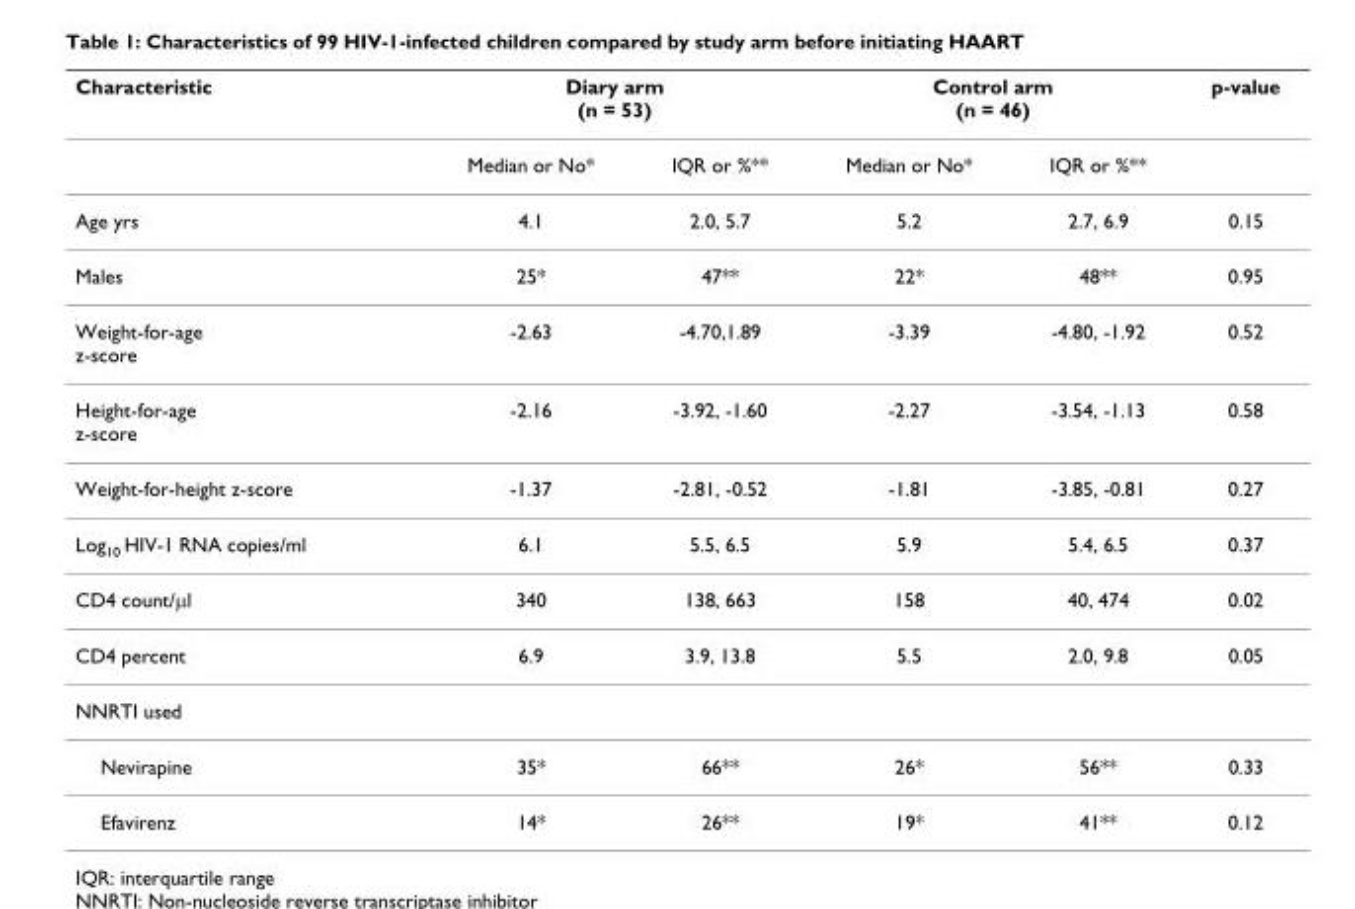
<table><thead><tr><td rowspan="2">Characteristic</td><td colspan="2">Diary arm (n = 53)</td><td colspan="2">Control arm (n = 46)</td><td rowspan="2">p-value</td></tr><tr><td>Median or No*</td><td>IQR or %**</td><td>Median or No*</td><td>IQR or %**</td></tr></thead><tbody><tr><td>Age yrs</td><td>4.1</td><td>2.0, 5.7</td><td>5.2</td><td>2.7, 6.9</td><td>0.15</td></tr><tr><td>Males</td><td>25*</td><td>47**</td><td>22*</td><td>48**</td><td>0.95</td></tr><tr><td>Weight-for-age z-score</td><td>-2.63</td><td>-4.70,1.89</td><td>-3.39</td><td>-4.80, -1.92</td><td>0.52</td></tr><tr><td>Height-for-age z-score</td><td>-2.16</td><td>-3.92, -1.60</td><td>-2.27</td><td>-3.54, -1.13</td><td>0.58</td></tr><tr><td>Weight-for-height z-score</td><td>-1.37</td><td>-2.81, -0.52</td><td>-1.81</td><td>-3.85, -0.81</td><td>0.27</td></tr><tr><td>Log<sub>10</sub> HIV-1 RNA copies/ml</td><td>6.1</td><td>5.5, 6.5</td><td>5.9</td><td>5.4, 6.5</td><td>0.37</td></tr><tr><td>CD4 count/μl</td><td>340</td><td>138, 663</td><td>158</td><td>40, 474</td><td>0.02</td></tr><tr><td>CD4 percent</td><td>6.9</td><td>3.9, 13.8</td><td>5.5</td><td>2.0, 9.8</td><td>0.05</td></tr><tr><td colspan="6">NNRTI used</td></tr><tr><td>Nevirapine</td><td>35*</td><td>66**</td><td>26*</td><td>56**</td><td>0.33</td></tr><tr><td>Efavirenz</td><td>14*</td><td>26**</td><td>19*</td><td>41**</td><td>0.12</td></tr></tbody></table>